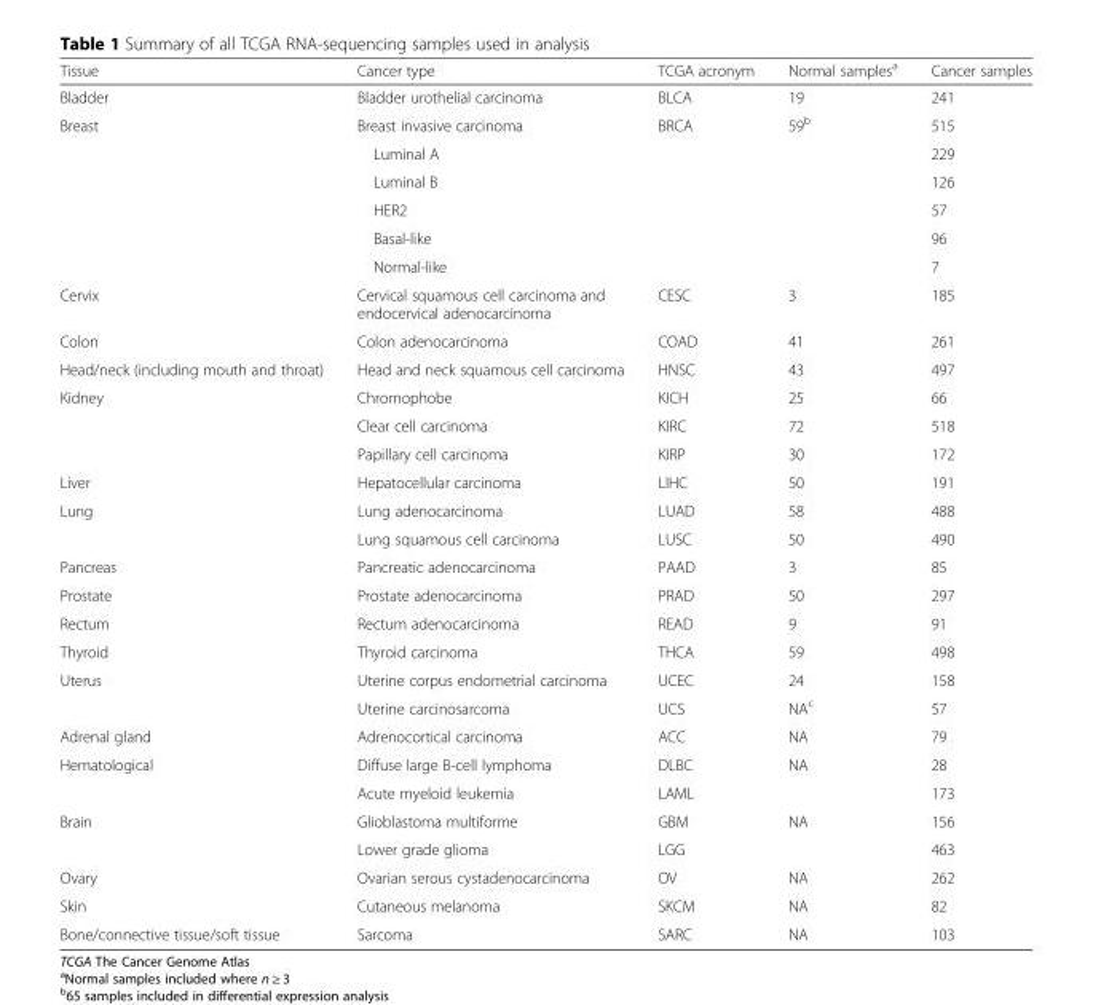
<table><thead><tr><td>Tissue</td><td>Cancer type</td><td>TCGA acronym</td><td>Normal samples<sup>a</sup></td><td>Cancer samples</td></tr></thead><tbody><tr><td>Bladder</td><td>Bladder urothelial carcinoma</td><td>BLCA</td><td>19</td><td>241</td></tr><tr><td rowspan="6">Breast</td><td>Breast invasive carcinoma</td><td rowspan="6">BRCA</td><td rowspan="6">59<sup>b</sup></td><td>515</td></tr><tr><td>Luminal A</td><td>229</td></tr><tr><td>Luminal B</td><td>126</td></tr><tr><td>HER2</td><td>57</td></tr><tr><td>Basal-like</td><td>96</td></tr><tr><td>Normal-like</td><td>7</td></tr><tr><td>Cervix</td><td>Cervical squamous cell carcinoma and endocervical adenocarcinoma</td><td>CESC</td><td>3</td><td>185</td></tr><tr><td>Colon</td><td>Colon adenocarcinoma</td><td>COAD</td><td>41</td><td>261</td></tr><tr><td>Head/neck (including mouth and throat)</td><td>Head and neck squamous cell carcinoma</td><td>HNSC</td><td>43</td><td>497</td></tr><tr><td rowspan="3">Kidney</td><td>Chromophobe</td><td>KICH</td><td>25</td><td>66</td></tr><tr><td>Clear cell carcinoma</td><td>KIRC</td><td>72</td><td>518</td></tr><tr><td>Papillary cell carcinoma</td><td>KIRP</td><td>30</td><td>172</td></tr><tr><td>Liver</td><td>Hepatocellular carcinoma</td><td>LIHC</td><td>50</td><td>191</td></tr><tr><td rowspan="2">Lung</td><td>Lung adenocarcinoma</td><td>LUAD</td><td>58</td><td>488</td></tr><tr><td>Lung squamous cell carcinoma</td><td>LUSC</td><td>50</td><td>490</td></tr><tr><td>Pancreas</td><td>Pancreatic adenocarcinoma</td><td>PAAD</td><td>3</td><td>85</td></tr><tr><td>Prostate</td><td>Prostate adenocarcinoma</td><td>PRAD</td><td>50</td><td>297</td></tr><tr><td>Rectum</td><td>Rectum adenocarcinoma</td><td>READ</td><td>9</td><td>91</td></tr><tr><td>Thyroid</td><td>Thyroid carcinoma</td><td>THCA</td><td>59</td><td>498</td></tr><tr><td rowspan="2">Uterus</td><td>Uterine corpus endometrial carcinoma</td><td>UCEC</td><td>24</td><td>158</td></tr><tr><td>Uterine carcinosarcoma</td><td>UCS</td><td>NA<sup>c</sup></td><td>57</td></tr><tr><td>Adrenal gland</td><td>Adrenocortical carcinoma</td><td>ACC</td><td>NA</td><td>79</td></tr><tr><td rowspan="2">Hematological</td><td>Diffuse large B-cell lymphoma</td><td>DLBC</td><td>NA</td><td>28</td></tr><tr><td>Acute myeloid leukemia</td><td>LAML</td><td></td><td>173</td></tr><tr><td rowspan="2">Brain</td><td>Glioblastoma multiforme</td><td>GBM</td><td>NA</td><td>156</td></tr><tr><td>Lower grade glioma</td><td>LGG</td><td></td><td>463</td></tr><tr><td>Ovary</td><td>Ovarian serous cystadenocarcinoma</td><td>OV</td><td>NA</td><td>262</td></tr><tr><td>Skin</td><td>Cutaneous melanoma</td><td>SKCM</td><td>NA</td><td>82</td></tr><tr><td>Bone/connective tissue/soft tissue</td><td>Sarcoma</td><td>SARC</td><td>NA</td><td>103</td></tr></tbody></table>